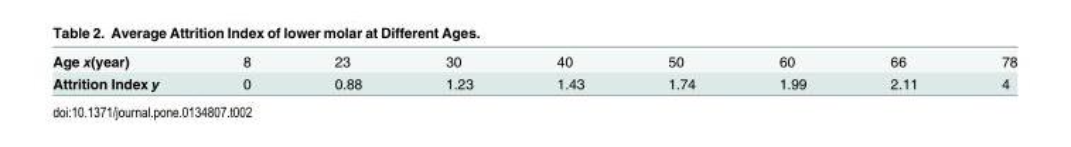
<table><tbody><tr><td>Age x(year)</td><td>8</td><td>23</td><td>30</td><td>40</td><td>50</td><td>60</td><td>66</td><td>78</td></tr><tr><td>Attrition Index y</td><td>0</td><td>0.88</td><td>1.23</td><td>1.43</td><td>1.74</td><td>1.99</td><td>2.11</td><td>4</td></tr></tbody></table>